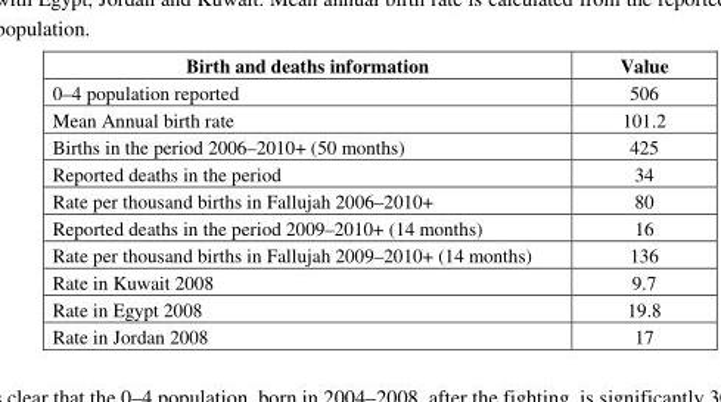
<table><thead><tr><td>Birth and deaths information</td><td>Value</td></tr></thead><tbody><tr><td>0–4 population reported</td><td>506</td></tr><tr><td>Mean Annual birth rate</td><td>101.2</td></tr><tr><td>Births in the period 2006–2010+ (50 months)</td><td>425</td></tr><tr><td>Reported deaths in the period</td><td>34</td></tr><tr><td>Rate per thousand births in Fallujah 2006–2010+</td><td>80</td></tr><tr><td>Reported deaths in the period 2009–2010+ (14 months)</td><td>16</td></tr><tr><td>Rate per thousand births in Fallujah 2009–2010+ (14 months)</td><td>136</td></tr><tr><td>Rate in Kuwait 2008</td><td>9.7</td></tr><tr><td>Rate in Egypt 2008</td><td>19.8</td></tr><tr><td>Rate in Jordan 2008</td><td>17</td></tr></tbody></table>